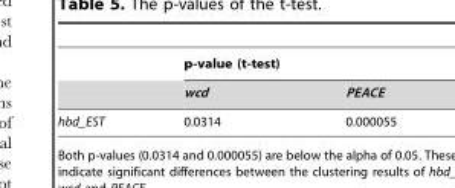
<table><thead><tr><td rowspan="2"></td><td colspan="2">p-value (t-test)</td></tr><tr><td>wcd</td><td>PEACE</td></tr></thead><tbody><tr><td>hbd_EST</td><td>0.0314</td><td>0.000055</td></tr></tbody></table>